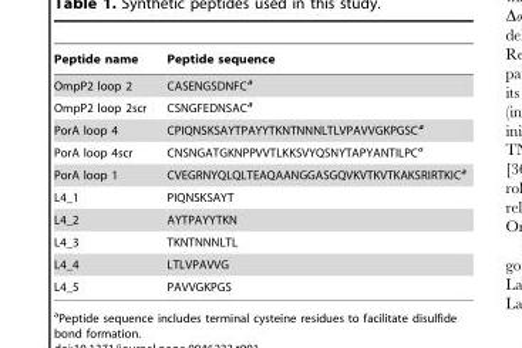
<table><thead><tr><td>Peptide name</td><td>Peptide sequence</td></tr></thead><tbody><tr><td>OmpP2 loop 2</td><td>CASENGSDNFCa</td></tr><tr><td>OmpP2 loop 2scr</td><td>CSNGFEDNSACa</td></tr><tr><td>PorA loop 4</td><td>CPIQNSKSAYTPAYYTKNTNNNLTLVPAVVGKPGSCa</td></tr><tr><td>PorA loop 4scr</td><td>CNSNGATGKNPPVVTLKKSVYQSNYTAPYANTILPCa</td></tr><tr><td>PorA loop 1</td><td>CVEGRNYQLQLTEAQAANGGASGQVKVTKVTKAKSRIRTKICa</td></tr><tr><td>L4_1</td><td>PIQNSKSAYT</td></tr><tr><td>L4_2</td><td>AYTPAYYTKN</td></tr><tr><td>L4_3</td><td>TKNTNNNLTL</td></tr><tr><td>L4_4</td><td>LTLVPAVVG</td></tr><tr><td>L4_5</td><td>PAVVGKPGS</td></tr></tbody></table>